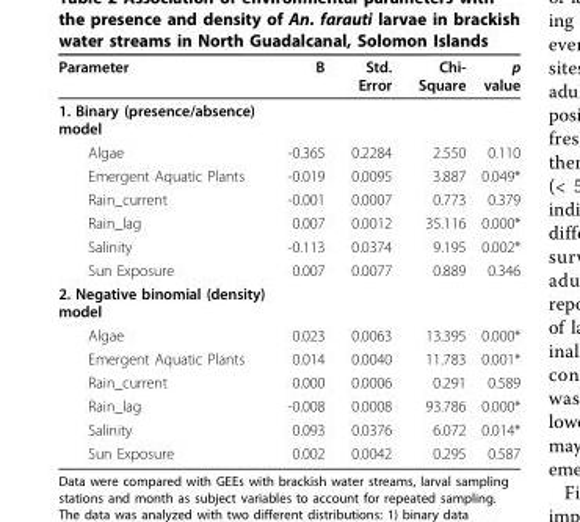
<table><thead><tr><td>Parameter</td><td>B</td><td>Std. Error</td><td>Chi- Square</td><td>p value</td></tr></thead><tbody><tr><td colspan="5">1. Binary (presence/absence) model</td></tr><tr><td>Algae</td><td>-0.365</td><td>0.2284</td><td>2.550</td><td>0.110</td></tr><tr><td>Emergent Aquatic Plants</td><td>-0.019</td><td>0.0095</td><td>3.887</td><td>0.049*</td></tr><tr><td>Rain_current</td><td>-0.001</td><td>0.0007</td><td>0.773</td><td>0.379</td></tr><tr><td>Rain_lag</td><td>0.007</td><td>0.0012</td><td>35.116</td><td>0.000*</td></tr><tr><td>Salinity</td><td>-0.113</td><td>0.0374</td><td>9.195</td><td>0.002*</td></tr><tr><td>Sun Exposure</td><td>0.007</td><td>0.0077</td><td>0.889</td><td>0.346</td></tr><tr><td colspan="5">2. Negative binomial (density) model</td></tr><tr><td>Algae</td><td>0.023</td><td>0.0063</td><td>13.395</td><td>0.000*</td></tr><tr><td>Emergent Aquatic Plants</td><td>0.014</td><td>0.0040</td><td>11.783</td><td>0.001*</td></tr><tr><td>Rain_current</td><td>0.000</td><td>0.0006</td><td>0.291</td><td>0.589</td></tr><tr><td>Rain_lag</td><td>-0.008</td><td>0.0008</td><td>93.786</td><td>0.000*</td></tr><tr><td>Salinity</td><td>0.093</td><td>0.0376</td><td>6.072</td><td>0.014*</td></tr><tr><td>Sun Exposure</td><td>0.002</td><td>0.0042</td><td>0.295</td><td>0.587</td></tr></tbody></table>